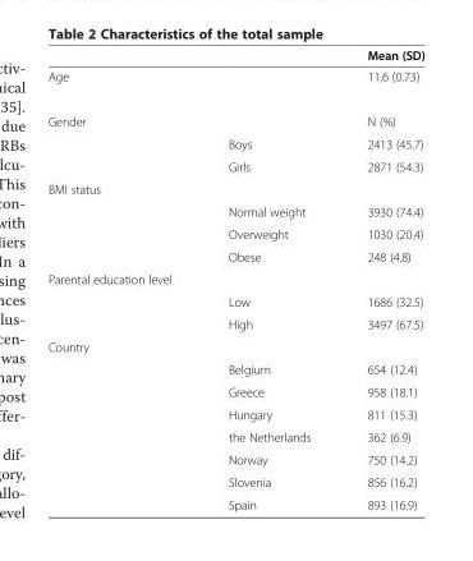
<table><thead><tr><td></td><td></td><td>Mean (SD)</td></tr></thead><tbody><tr><td>Age</td><td></td><td>11,6 (0.73)</td></tr><tr><td rowspan="3">Gender</td><td></td><td>N (%)</td></tr><tr><td>Boys</td><td>2413 (45.7)</td></tr><tr><td>Girls</td><td>2871 (54.3)</td></tr><tr><td colspan="3">BMI status</td></tr><tr><td></td><td>Normal weight</td><td>3930 (74.4)</td></tr><tr><td></td><td>Overweight</td><td>1030 (20.4)</td></tr><tr><td></td><td>Obese</td><td>248 (4.8)</td></tr><tr><td colspan="3">Parental education level</td></tr><tr><td></td><td>Low</td><td>1686 (32.5)</td></tr><tr><td></td><td>High</td><td>3497 (67.5)</td></tr><tr><td colspan="3">Country</td></tr><tr><td></td><td>Belgium</td><td>654 (12.4)</td></tr><tr><td></td><td>Greece</td><td>958 (18.1)</td></tr><tr><td></td><td>Hungary</td><td>811 (15.3)</td></tr><tr><td></td><td>the Netherlands</td><td>362 (6.9)</td></tr><tr><td></td><td>Norway</td><td>750 (14.2)</td></tr><tr><td></td><td>Slovenia</td><td>856 (16.2)</td></tr><tr><td></td><td>Spain</td><td>893 (16.9)</td></tr></tbody></table>